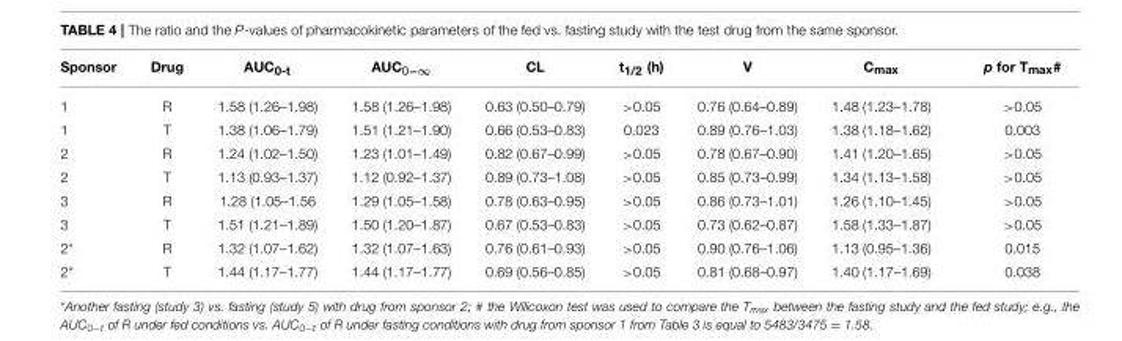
<table><thead><tr><td>Sponsor</td><td>Drug</td><td>AUC<sub>0-t</sub></td><td>AUC<sub>0−∞</sub></td><td>CL</td><td>t<sub>1/2</sub> (h)</td><td>V</td><td>C<sub>max</sub></td><td>p for T<sub>max</sub>#</td></tr></thead><tbody><tr><td>1</td><td>R</td><td>1.58 (1.26–1.98)</td><td>1.58 (1.26–1.98)</td><td>0.63 (0.50–0.79)</td><td>&gt;0.05</td><td>0.76 (0.64–0.89)</td><td>1.48 (1.23–1.78)</td><td>&gt;0.05</td></tr><tr><td>1</td><td>T</td><td>1.38 (1.06–1.79)</td><td>1.51 (1.21–1.90)</td><td>0.66 (0.53–0.83)</td><td>0.023</td><td>0.89 (0.76–1.03)</td><td>1.38 (1.18–1.62)</td><td>0.003</td></tr><tr><td>2</td><td>R</td><td>1.24 (1.02–1.50)</td><td>1.23 (1.01–1.49)</td><td>0.82 (0.67–0.99)</td><td>&gt;0.05</td><td>0.78 (0.67–0.90)</td><td>1.41 (1.20–1.65)</td><td>&gt;0.05</td></tr><tr><td>2</td><td>T</td><td>1.13 (0.93–1.37)</td><td>1.12 (0.92–1.37)</td><td>0.89 (0.73–1.08)</td><td>&gt;0.05</td><td>0.85 (0.73–0.99)</td><td>1.34 (1.13–1.58)</td><td>&gt;0.05</td></tr><tr><td>3</td><td>R</td><td>1.28 (1.05–1.56</td><td>1.29 (1.05–1.58)</td><td>0.78 (0.63–0.95)</td><td>&gt;0.05</td><td>0.86 (0.73–1.01)</td><td>1.26 (1.10–1.45)</td><td>&gt;0.05</td></tr><tr><td>3</td><td>T</td><td>1.51 (1.21–1.89)</td><td>1.50 (1.20–1.87)</td><td>0.67 (0.53–0.83)</td><td>&gt;0.05</td><td>0.73 (0.62–0.87)</td><td>1.58 (1.33–1.87)</td><td>&gt;0.05</td></tr><tr><td>2*</td><td>R</td><td>1.32 (1.07–1.62)</td><td>1.32 (1.07–1.63)</td><td>0.76 (0.61–0.93)</td><td>&gt;0.05</td><td>0.90 (0.76–1.06)</td><td>1.13 (0.95–1.36)</td><td>0.015</td></tr><tr><td>2*</td><td>T</td><td>1.44 (1.17–1.77)</td><td>1.44 (1.17–1.77)</td><td>0.69 (0.56–0.85)</td><td>&gt;0.05</td><td>0.81 (0.68–0.97)</td><td>1.40 (1.17–1.69)</td><td>0.038</td></tr></tbody></table>